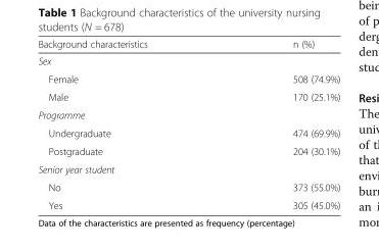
<table><thead><tr><td>Background characteristics</td><td>n (%)</td></tr></thead><tbody><tr><td colspan="2">Sex</td></tr><tr><td>Female</td><td>508 (74.9%)</td></tr><tr><td>Male</td><td>170 (25.1%)</td></tr><tr><td colspan="2">Programme</td></tr><tr><td>Undergraduate</td><td>474 (69.9%)</td></tr><tr><td>Postgraduate</td><td>204 (30.1%)</td></tr><tr><td colspan="2">Senior year student</td></tr><tr><td>No</td><td>373 (55.0%)</td></tr><tr><td>Yes</td><td>305 (45.0%)</td></tr></tbody></table>